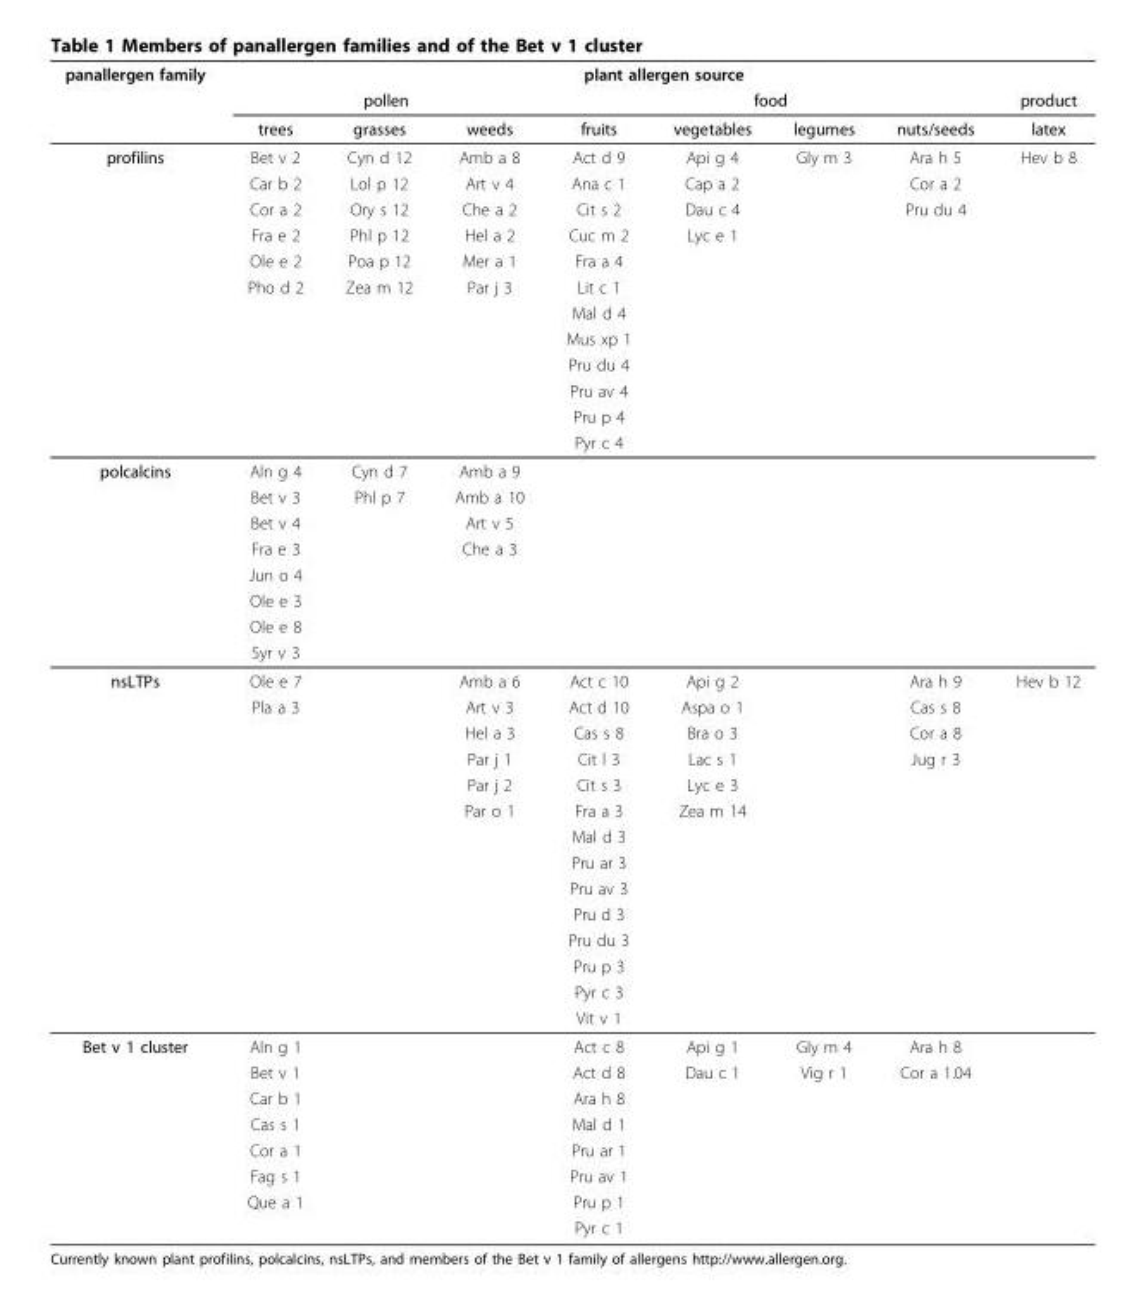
<table><thead><tr><td rowspan="3">panallergen family</td><td colspan="8">plant allergen source</td></tr><tr><td colspan="3">pollen</td><td colspan="4">food</td><td rowspan="2">product latex</td></tr><tr><td>trees</td><td>grasses</td><td>weeds</td><td>fruits</td><td>vegetables</td><td>legumes</td><td>nuts/seeds</td></tr></thead><tbody><tr><td rowspan="12">profilins</td><td>Bet v 2</td><td>Cyn d 12</td><td>Amb a 8</td><td>Act d 9</td><td>Api g 4</td><td>Gly m 3</td><td>Ara h 5</td><td>Hev b 8</td></tr><tr><td>Car b 2</td><td>Lol p 12</td><td>Art v 4</td><td>Ana c 1</td><td>Cap a 2</td><td></td><td>Cor a 2</td><td></td></tr><tr><td>Cor a 2</td><td>Ory s 12</td><td>Che a 2</td><td>Cit s 2</td><td>Dau c 4</td><td></td><td>Pru du 4</td><td></td></tr><tr><td>Fra e 2</td><td>Phl p 12</td><td>Hel a 2</td><td>Cuc m 2</td><td>Lyc e 1</td><td></td><td></td><td></td></tr><tr><td>Ole e 2</td><td>Poa p 12</td><td>Mer a 1</td><td>Fra a 4</td><td></td><td></td><td></td><td></td></tr><tr><td>Pho d 2</td><td>Zea m 12</td><td>Par j 3</td><td>Lit c 1</td><td></td><td></td><td></td><td></td></tr><tr><td></td><td></td><td></td><td>Mal d 4</td><td></td><td></td><td></td><td></td></tr><tr><td></td><td></td><td></td><td>Mus xp 1</td><td></td><td></td><td></td><td></td></tr><tr><td></td><td></td><td></td><td>Pru du 4</td><td></td><td></td><td></td><td></td></tr><tr><td></td><td></td><td></td><td>Pru av 4</td><td></td><td></td><td></td><td></td></tr><tr><td></td><td></td><td></td><td>Pru p 4</td><td></td><td></td><td></td><td></td></tr><tr><td></td><td></td><td></td><td>Pyr c 4</td><td></td><td></td><td></td><td></td></tr><tr><td rowspan="8">polcalcins</td><td>Aln g 4</td><td>Cyn d 7</td><td>Amb a 9</td><td></td><td></td><td></td><td></td><td></td></tr><tr><td>Bet v 3</td><td>Phl p 7</td><td>Amb a 10</td><td></td><td></td><td></td><td></td><td></td></tr><tr><td>Bet v 4</td><td></td><td>Art v 5</td><td></td><td></td><td></td><td></td><td></td></tr><tr><td>Fra e 3</td><td></td><td>Che a 3</td><td></td><td></td><td></td><td></td><td></td></tr><tr><td>Jun o 4</td><td></td><td></td><td></td><td></td><td></td><td></td><td></td></tr><tr><td>Ole e 3</td><td></td><td></td><td></td><td></td><td></td><td></td><td></td></tr><tr><td>Ole e 8</td><td></td><td></td><td></td><td></td><td></td><td></td><td></td></tr><tr><td>Syr v 3</td><td></td><td></td><td></td><td></td><td></td><td></td><td></td></tr><tr><td rowspan="14">nsLTPs</td><td>Ole e 7</td><td></td><td>Amb a 6</td><td>Act c 10</td><td>Api g 2</td><td></td><td>Ara h 9</td><td>Hev b 12</td></tr><tr><td>Pla a 3</td><td></td><td>Art v 3</td><td>Act d 10</td><td>Aspa o 1</td><td></td><td>Cas s 8</td><td></td></tr><tr><td></td><td></td><td>Hel a 3</td><td>Cas s 8</td><td>Bra o 3</td><td></td><td>Cor a 8</td><td></td></tr><tr><td></td><td></td><td>Par j 1</td><td>Cit l 3</td><td>Lac s 1</td><td></td><td>Jug r 3</td><td></td></tr><tr><td></td><td></td><td>Par j 2</td><td>Cit s 3</td><td>Lyc e 3</td><td></td><td></td><td></td></tr><tr><td></td><td></td><td>Par o 1</td><td>Fra a 3</td><td>Zea m 14</td><td></td><td></td><td></td></tr><tr><td></td><td></td><td></td><td>Mal d 3</td><td></td><td></td><td></td><td></td></tr><tr><td></td><td></td><td></td><td>Pru ar 3</td><td></td><td></td><td></td><td></td></tr><tr><td></td><td></td><td></td><td>Pru av 3</td><td></td><td></td><td></td><td></td></tr><tr><td></td><td></td><td></td><td>Pru d 3</td><td></td><td></td><td></td><td></td></tr><tr><td></td><td></td><td></td><td>Pru du 3</td><td></td><td></td><td></td><td></td></tr><tr><td></td><td></td><td></td><td>Pru p 3</td><td></td><td></td><td></td><td></td></tr><tr><td></td><td></td><td></td><td>Pyr c 3</td><td></td><td></td><td></td><td></td></tr><tr><td></td><td></td><td></td><td>Vit v 1</td><td></td><td></td><td></td><td></td></tr><tr><td rowspan="8">Bet v 1 cluster</td><td>Aln g 1</td><td></td><td></td><td>Act c 8</td><td>Api g 1</td><td>Gly m 4</td><td>Ara h 8</td><td></td></tr><tr><td>Bet v 1</td><td></td><td></td><td>Act d 8</td><td>Dau c 1</td><td>Vig r 1</td><td>Cor a 1.04</td><td></td></tr><tr><td>Car b 1</td><td></td><td></td><td>Ara h 8</td><td></td><td></td><td></td><td></td></tr><tr><td>Cas s 1</td><td></td><td></td><td>Mal d 1</td><td></td><td></td><td></td><td></td></tr><tr><td>Cor a 1</td><td></td><td></td><td>Pru ar 1</td><td></td><td></td><td></td><td></td></tr><tr><td>Fag s 1</td><td></td><td></td><td>Pru av 1</td><td></td><td></td><td></td><td></td></tr><tr><td>Que a 1</td><td></td><td></td><td>Pru p 1</td><td></td><td></td><td></td><td></td></tr><tr><td></td><td></td><td></td><td>Pyr c 1</td><td></td><td></td><td></td><td></td></tr></tbody></table>